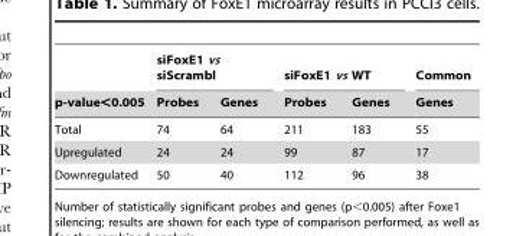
<table><thead><tr><td rowspan="2">p-value&lt;0.005</td><td colspan="2">siFoxE1 vs siScrambl</td><td colspan="2">siFoxE1 vs WT</td><td rowspan="2">Common Genes</td></tr><tr><td>Probes</td><td>Genes</td><td>Probes</td><td>Genes</td></tr></thead><tbody><tr><td>Total</td><td>74</td><td>64</td><td>211</td><td>183</td><td>55</td></tr><tr><td>Upregulated</td><td>24</td><td>24</td><td>99</td><td>87</td><td>17</td></tr><tr><td>Downregulated</td><td>50</td><td>40</td><td>112</td><td>96</td><td>38</td></tr></tbody></table>